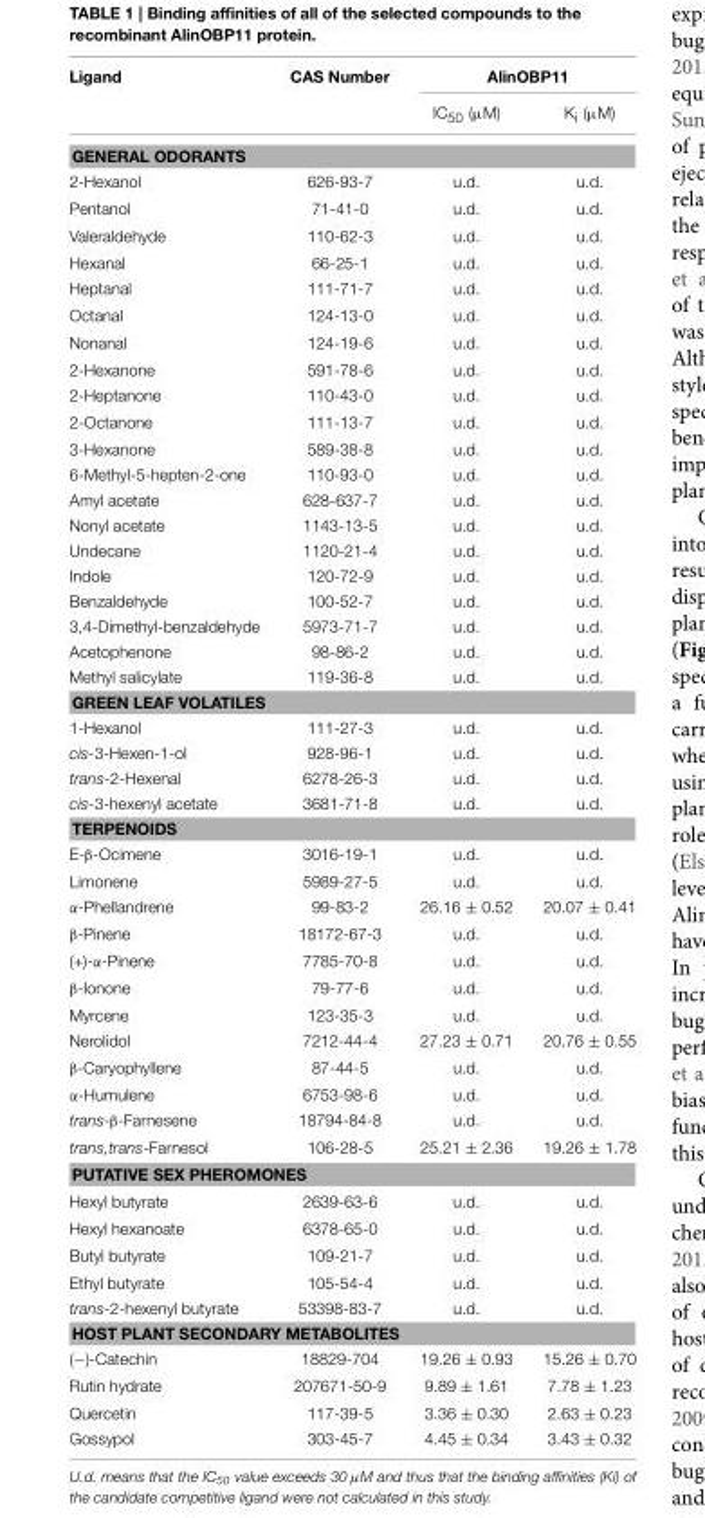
<table><thead><tr><td rowspan="2">Ligand</td><td rowspan="2">CAS Number</td><td colspan="2">AlinOBP11</td></tr><tr><td>IC<sub>50</sub> (µM)</td><td>K<sub>i</sub> (µM)</td></tr></thead><tbody><tr><td colspan="4">GENERAL ODORANTS</td></tr><tr><td>2-Hexanol</td><td>626-93-7</td><td>u.d.</td><td>u.d.</td></tr><tr><td>Pentanol</td><td>71-41-0</td><td>u.d.</td><td>u.d.</td></tr><tr><td>Valeraldehyde</td><td>110-62-3</td><td>u.d.</td><td>u.d.</td></tr><tr><td>Hexanal</td><td>66-25-1</td><td>u.d.</td><td>u.d.</td></tr><tr><td>Heptanal</td><td>111-71-7</td><td>u.d.</td><td>u.d.</td></tr><tr><td>Octanal</td><td>124-13-0</td><td>u.d.</td><td>u.d.</td></tr><tr><td>Nonanal</td><td>124-19-6</td><td>u.d.</td><td>u.d.</td></tr><tr><td>2-Hexanone</td><td>591-78-6</td><td>u.d.</td><td>u.d.</td></tr><tr><td>2-Heptanone</td><td>110-43-0</td><td>u.d.</td><td>u.d.</td></tr><tr><td>2-Octanone</td><td>111-13-7</td><td>u.d.</td><td>u.d.</td></tr><tr><td>3-Hexanone</td><td>589-38-8</td><td>u.d.</td><td>u.d.</td></tr><tr><td>6-Methyl-5-hepten-2-one</td><td>110-93-0</td><td>u.d.</td><td>u.d.</td></tr><tr><td>Amyl acetate</td><td>628-637-7</td><td>u.d.</td><td>u.d.</td></tr><tr><td>Nonyl acetate</td><td>1143-13-5</td><td>u.d.</td><td>u.d.</td></tr><tr><td>Undecane</td><td>1120-21-4</td><td>u.d.</td><td>u.d.</td></tr><tr><td>Indole</td><td>120-72-9</td><td>u.d.</td><td>u.d.</td></tr><tr><td>Benzaldehyde</td><td>100-52-7</td><td>u.d.</td><td>u.d.</td></tr><tr><td>3,4-Dimethyl-benzaldehyde</td><td>5973-71-7</td><td>u.d.</td><td>u.d.</td></tr><tr><td>Acetophenone</td><td>98-86-2</td><td>u.d.</td><td>u.d.</td></tr><tr><td>Methyl salicylate</td><td>119-36-8</td><td>u.d.</td><td>u.d.</td></tr><tr><td colspan="4">GREEN LEAF VOLATILES</td></tr><tr><td>1-Hexanol</td><td>111-27-3</td><td>u.d.</td><td>u.d.</td></tr><tr><td>cis-3-Hexen-1-ol</td><td>928-96-1</td><td>u.d.</td><td>u.d.</td></tr><tr><td>trans-2-Hexenal</td><td>6278-26-3</td><td>u.d.</td><td>u.d.</td></tr><tr><td>cis-3-hexenyl acetate</td><td>3681-71-8</td><td>u.d.</td><td>u.d.</td></tr><tr><td colspan="4">TERPENOIDS</td></tr><tr><td>E-β-Ocimene</td><td>3016-19-1</td><td>u.d.</td><td>u.d.</td></tr><tr><td>Limonene</td><td>5989-27-5</td><td>u.d.</td><td>u.d.</td></tr><tr><td>α-Phellandrene</td><td>99-83-2</td><td>26.16 ± 0.52</td><td>20.07 ± 0.41</td></tr><tr><td>β-Pinene</td><td>18172-67-3</td><td>u.d.</td><td>u.d.</td></tr><tr><td>(+)-α-Pinene</td><td>7785-70-8</td><td>u.d.</td><td>u.d.</td></tr><tr><td>β-Ionone</td><td>79-77-6</td><td>u.d.</td><td>u.d.</td></tr><tr><td>Myrcene</td><td>123-35-3</td><td>u.d.</td><td>u.d.</td></tr><tr><td>Nerolidol</td><td>7212-44-4</td><td>27.23 ± 0.71</td><td>20.76 ± 0.55</td></tr><tr><td>β-Caryophyllene</td><td>87-44-5</td><td>u.d.</td><td>u.d.</td></tr><tr><td>α-Humulene</td><td>6753-98-6</td><td>u.d.</td><td>u.d.</td></tr><tr><td>trans-β-Farnesene</td><td>18794-84-8</td><td>u.d.</td><td>u.d.</td></tr><tr><td>trans,trans-Farnesol</td><td>106-28-5</td><td>25.21 ± 2.36</td><td>19.26 ± 1.78</td></tr><tr><td colspan="4">PUTATIVE SEX PHEROMONES</td></tr><tr><td>Hexyl butyrate</td><td>2639-63-6</td><td>u.d.</td><td>u.d.</td></tr><tr><td>Hexyl hexanoate</td><td>6378-65-0</td><td>u.d.</td><td>u.d.</td></tr><tr><td>Butyl butyrate</td><td>109-21-7</td><td>u.d.</td><td>u.d.</td></tr><tr><td>Ethyl butyrate</td><td>105-54-4</td><td>u.d.</td><td>u.d.</td></tr><tr><td>trans-2-hexenyl butyrate</td><td>53398-83-7</td><td>u.d.</td><td>u.d.</td></tr><tr><td colspan="4">HOST PLANT SECONDARY METABOLITES</td></tr><tr><td>(−)-Catechin</td><td>18829-704</td><td>19.26 ± 0.93</td><td>15.26 ± 0.70</td></tr><tr><td>Rutin hydrate</td><td>207671-50-9</td><td>9.89 ± 1.61</td><td>7.78 ± 1.23</td></tr><tr><td>Quercetin</td><td>117-39-5</td><td>3.36 ± 0.30</td><td>2.63 ± 0.23</td></tr><tr><td>Gossypol</td><td>303-45-7</td><td>4.45 ± 0.34</td><td>3.43 ± 0.32</td></tr></tbody></table>